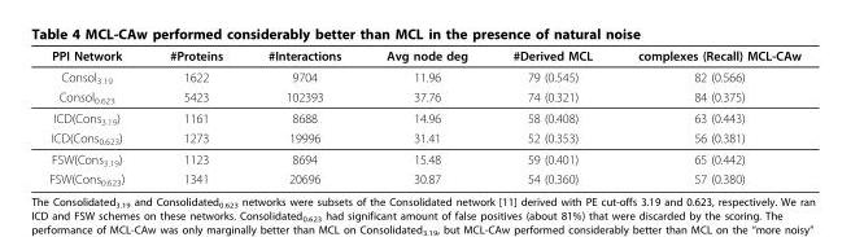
<table><thead><tr><td>PPI Network</td><td>#Proteins</td><td>#Interactions</td><td>Avg node deg</td><td>#Derived MCL</td><td>complexes (Recall) MCL-CAw</td></tr></thead><tbody><tr><td>Consol<sub>3.19</sub></td><td>1622</td><td>9704</td><td>11.96</td><td>79 (0.545)</td><td>82 (0.566)</td></tr><tr><td>Consol<sub>0.623</sub></td><td>5423</td><td>102393</td><td>37.76</td><td>74 (0.321)</td><td>84 (0.375)</td></tr><tr><td>ICD(Cons<sub>3.19</sub>)</td><td>1161</td><td>8688</td><td>14.96</td><td>58 (0.408)</td><td>63 (0.443)</td></tr><tr><td>ICD(Cons<sub>0.623</sub>)</td><td>1273</td><td>19996</td><td>31.41</td><td>52 (0.353)</td><td>56 (0.381)</td></tr><tr><td>FSW(Cons<sub>3.19</sub>)</td><td>1123</td><td>8694</td><td>15.48</td><td>59 (0.401)</td><td>65 (0.442)</td></tr><tr><td>FSW(Cons<sub>0.623</sub>)</td><td>1341</td><td>20696</td><td>30.87</td><td>54 (0.360)</td><td>57 (0.380)</td></tr></tbody></table>